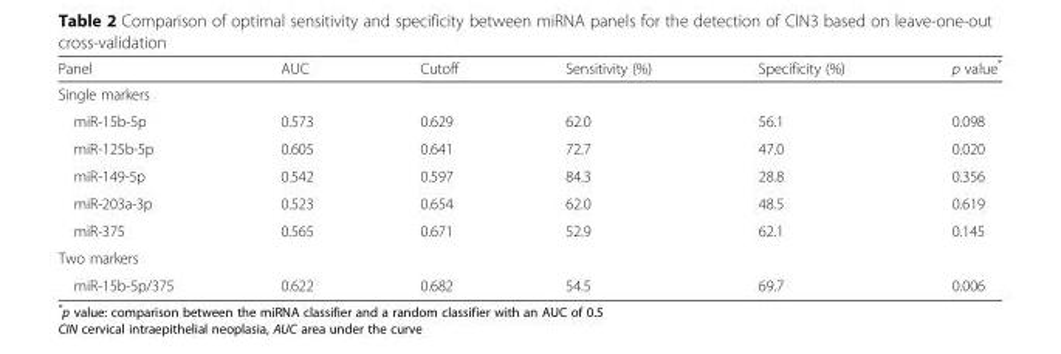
<table><thead><tr><td>Panel</td><td>AUC</td><td>Cutoff</td><td>Sensitivity (%)</td><td>Specificity (%)</td><td>p value*</td></tr></thead><tbody><tr><td colspan="6">Single markers</td></tr><tr><td>miR-15b-5p</td><td>0.573</td><td>0.629</td><td>62.0</td><td>56.1</td><td>0.098</td></tr><tr><td>miR-125b-5p</td><td>0.605</td><td>0.641</td><td>72.7</td><td>47.0</td><td>0.020</td></tr><tr><td>miR-149-5p</td><td>0.542</td><td>0.597</td><td>84.3</td><td>28.8</td><td>0.356</td></tr><tr><td>miR-203a-3p</td><td>0.523</td><td>0.654</td><td>62.0</td><td>48.5</td><td>0.619</td></tr><tr><td>miR-375</td><td>0.565</td><td>0.671</td><td>52.9</td><td>62.1</td><td>0.145</td></tr><tr><td colspan="6">Two markers</td></tr><tr><td>miR-15b-5p/375</td><td>0.622</td><td>0.682</td><td>54.5</td><td>69.7</td><td>0.006</td></tr></tbody></table>